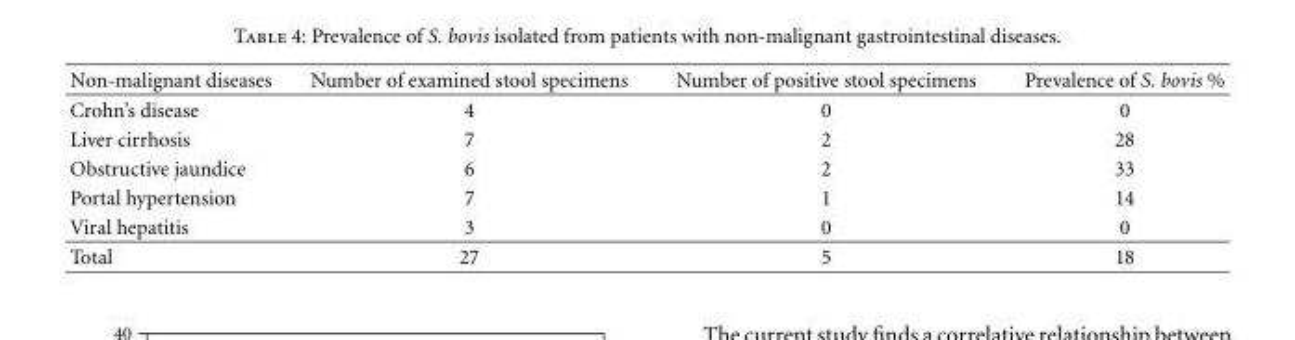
<table><thead><tr><td>Non-malignant diseases</td><td>Number of examined stool specimens</td><td>Number of positive stool specimens</td><td>Prevalence of S. bovis %</td></tr></thead><tbody><tr><td>Crohn’s disease</td><td>4</td><td>0</td><td>0</td></tr><tr><td>Liver cirrhosis</td><td>7</td><td>2</td><td>28</td></tr><tr><td>Obstructive jaundice</td><td>6</td><td>2</td><td>33</td></tr><tr><td>Portal hypertension</td><td>7</td><td>1</td><td>14</td></tr><tr><td>Viral hepatitis</td><td>3</td><td>0</td><td>0</td></tr><tr><td>Total</td><td>27</td><td>5</td><td>18</td></tr></tbody></table>